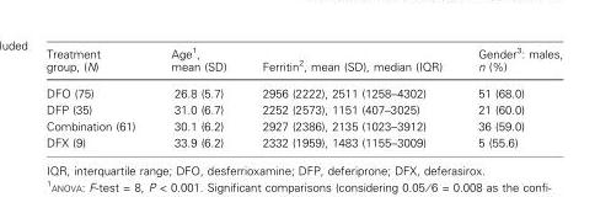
<table><thead><tr><td>Treatment group, (N)</td><td>Age<sup>1</sup>, mean (SD)</td><td>Ferritin<sup>2</sup>, mean (SD), median (IQR)</td><td>Gender<sup>3</sup>: males, n (%)</td></tr></thead><tbody><tr><td>DFO (75)</td><td>26.8 (5.7)</td><td>2956 (2222), 2511 (1258–4302)</td><td>51 (68.0)</td></tr><tr><td>DFP (35)</td><td>31.0 (6.7)</td><td>2252 (2573), 1151 (407–3025)</td><td>21 (60.0)</td></tr><tr><td>Combination (61)</td><td>30.1 (6.2)</td><td>2927 (2386), 2135 (1023–3912)</td><td>36 (59.0)</td></tr><tr><td>DFX (9)</td><td>33.9 (6.2)</td><td>2332 (1959), 1483 (1155–3009)</td><td>5 (55.6)</td></tr></tbody></table>